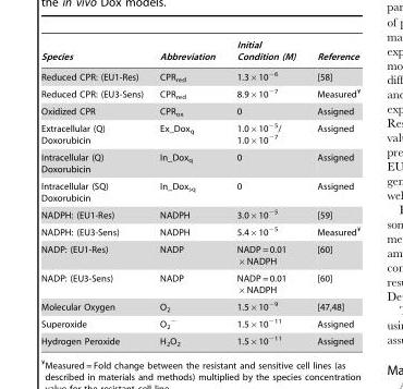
<table><thead><tr><td>Species</td><td>Abbreviation</td><td>Initial Condition (M)</td><td>Reference</td></tr></thead><tbody><tr><td>Reduced CPR: (EU1-Res)</td><td>CPR<sub>red</sub></td><td>1.3|1026</td><td>[58]</td></tr><tr><td>Reduced CPR: (EU3-Sens)</td><td>CPR<sub>red</sub></td><td>8.9|1027</td><td>Measured¥</td></tr><tr><td>Oxidized CPR</td><td>CPR<sub>ox</sub></td><td>0</td><td>Assigned</td></tr><tr><td>Extracellular (Q) Doxorubicin</td><td>Ex_Dox<sub>q</sub></td><td>1.0|1025/ 1.0|1027</td><td>Assigned</td></tr><tr><td>Intracellular (Q) Doxorubicin</td><td>In_Dox<sub>q</sub></td><td>0</td><td>Assigned</td></tr><tr><td>Intracellular (SQ) Doxorubicin</td><td>In_Dox<sub>sq</sub></td><td>0</td><td>Assigned</td></tr><tr><td>NADPH: (EU1-Res)</td><td>NADPH</td><td>3.0|1025</td><td>[59]</td></tr><tr><td>NADPH: (EU3-Sens)</td><td>NADPH</td><td>5.4|1025</td><td>Measured¥</td></tr><tr><td>NADP: (EU1-Res)</td><td>NADP</td><td>NADP = 0.01 |NADPH</td><td>[60]</td></tr><tr><td>NADP: (EU3-Sens)</td><td>NADP</td><td>NADP = 0.01 |NADPH</td><td>[60]</td></tr><tr><td>Molecular Oxygen</td><td>O<sub>2</sub></td><td>1.5|1029</td><td>[47,48]</td></tr><tr><td>Superoxide</td><td>O<sub>2</sub> <sup>−</sup></td><td>1.5|10211</td><td>Assigned</td></tr><tr><td>Hydrogen Peroxide</td><td>H<sub>2</sub>O<sub>2</sub></td><td>1.5|10211</td><td>Assigned</td></tr></tbody></table>